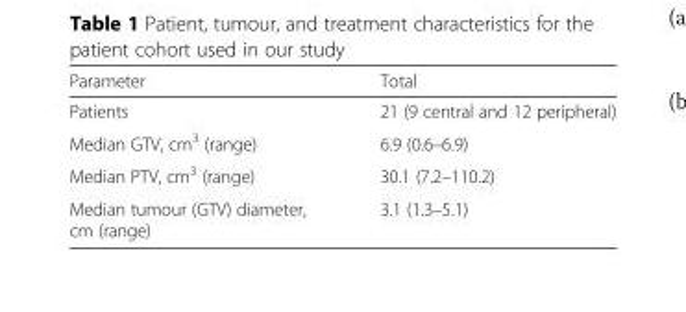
<table><thead><tr><td>Parameter</td><td>Total</td></tr></thead><tbody><tr><td>Patients</td><td>21 (9 central and 12 peripheral)</td></tr><tr><td>Median GTV, cm<sup>3</sup> (range)</td><td>6.9 (0.6–6.9)</td></tr><tr><td>Median PTV, cm<sup>3</sup> (range)</td><td>30.1 (7.2–110.2)</td></tr><tr><td>Median tumour (GTV) diameter, cm (range)</td><td>3.1 (1.3–5.1)</td></tr></tbody></table>